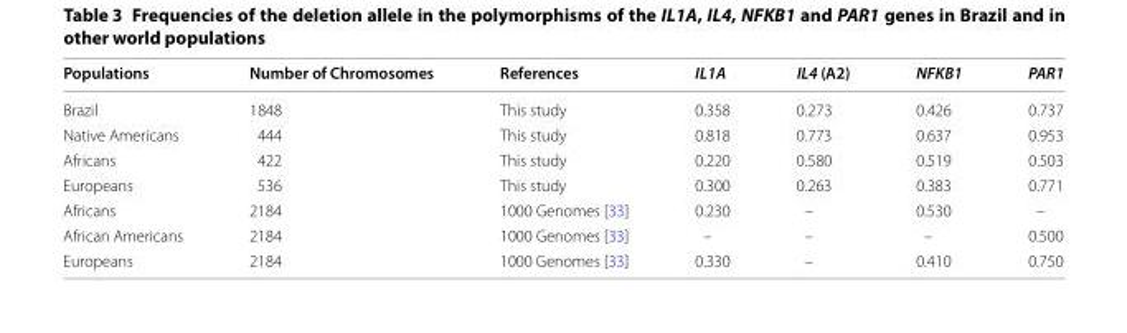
<table><thead><tr><td>Populations</td><td>Number of Chromosomes</td><td>References</td><td>IL1A</td><td>IL4 (A2)</td><td>NFKB1</td><td>PAR1</td></tr></thead><tbody><tr><td>Brazil</td><td>1848</td><td>This study</td><td>0.358</td><td>0.273</td><td>0.426</td><td>0.737</td></tr><tr><td>Native Americans</td><td>444</td><td>This study</td><td>0.818</td><td>0.773</td><td>0.637</td><td>0.953</td></tr><tr><td>Africans</td><td>422</td><td>This study</td><td>0.220</td><td>0.580</td><td>0.519</td><td>0.503</td></tr><tr><td>Europeans</td><td>536</td><td>This study</td><td>0.300</td><td>0.263</td><td>0.383</td><td>0.771</td></tr><tr><td>Africans</td><td>2184</td><td>1000 Genomes [33]</td><td>0.230</td><td>–</td><td>0.530</td><td>–</td></tr><tr><td>African Americans</td><td>2184</td><td>1000 Genomes [33]</td><td>–</td><td>–</td><td>–</td><td>0.500</td></tr><tr><td>Europeans</td><td>2184</td><td>1000 Genomes [33]</td><td>0.330</td><td>–</td><td>0.410</td><td>0.750</td></tr></tbody></table>